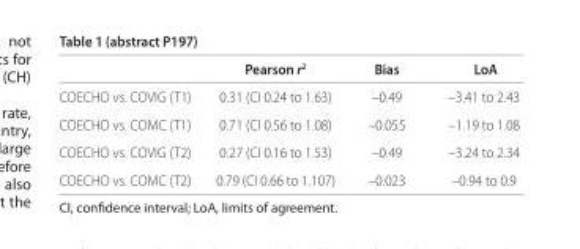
<table><thead><tr><td></td><td>Pearson r<sup>2</sup></td><td>Bias</td><td>LoA</td></tr></thead><tbody><tr><td>COECHO vs. COVIG (T1)</td><td>0.31 (CI 0.24 to 1.63)</td><td>–0.49</td><td>–3.41 to 2.43</td></tr><tr><td>COECHO vs. COMC (T1)</td><td>0.71 (CI 0.56 to 1.08)</td><td>–0.055</td><td>–1.19 to 1.08</td></tr><tr><td>COECHO vs. COVIG (T2)</td><td>0.27 (CI 0.16 to 1.53)</td><td>–0.49</td><td>–3.24 to 2.34</td></tr><tr><td>COECHO vs. COMC (T2)</td><td>0.79 (CI 0.66 to 1.107)</td><td>–0.023</td><td>–0.94 to 0.9</td></tr></tbody></table>